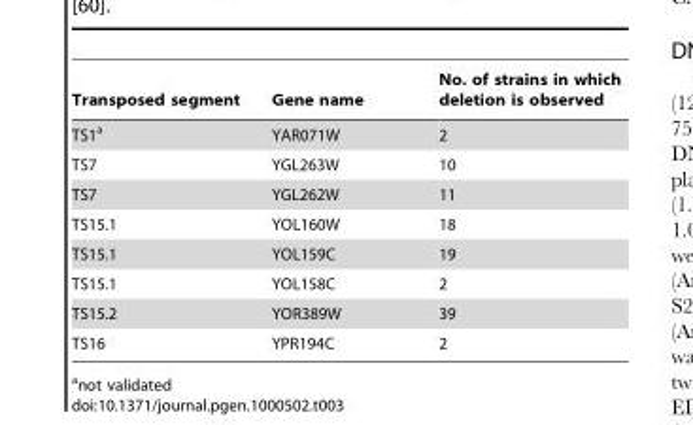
<table><thead><tr><td>Transposed segment</td><td>Gene name</td><td>No. of strains in which deletion is observed</td></tr></thead><tbody><tr><td>TS1<sup>a</sup></td><td>YAR071W</td><td>2</td></tr><tr><td>TS7</td><td>YGL263W</td><td>10</td></tr><tr><td>TS7</td><td>YGL262W</td><td>11</td></tr><tr><td>TS15.1</td><td>YOL160W</td><td>18</td></tr><tr><td>TS15.1</td><td>YOL159C</td><td>19</td></tr><tr><td>TS15.1</td><td>YOL158C</td><td>2</td></tr><tr><td>TS15.2</td><td>YOR389W</td><td>39</td></tr><tr><td>TS16</td><td>YPR194C</td><td>2</td></tr></tbody></table>